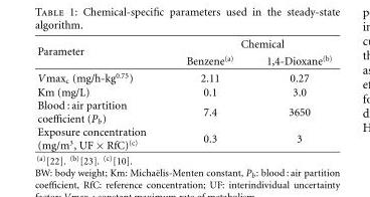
<table><thead><tr><td rowspan="2">Parameter</td><td colspan="2">Chemical</td></tr><tr><td>Benzene<sup>(a)</sup></td><td>1,4-Dioxane<sup>(b)</sup></td></tr></thead><tbody><tr><td>Vmax<sub>c</sub> (mg/h-kg<sup>0.75</sup>)</td><td>2.11</td><td>0.27</td></tr><tr><td>Km (mg/L)</td><td>0.1</td><td>3.0</td></tr><tr><td>Blood : air partition coefficient (P<sub>b</sub>)</td><td>7.4</td><td>3650</td></tr><tr><td>Exposure concentration (mg/m<sup>3</sup>, UF × RfC)<sup>(c)</sup></td><td>0.3</td><td>3</td></tr></tbody></table>